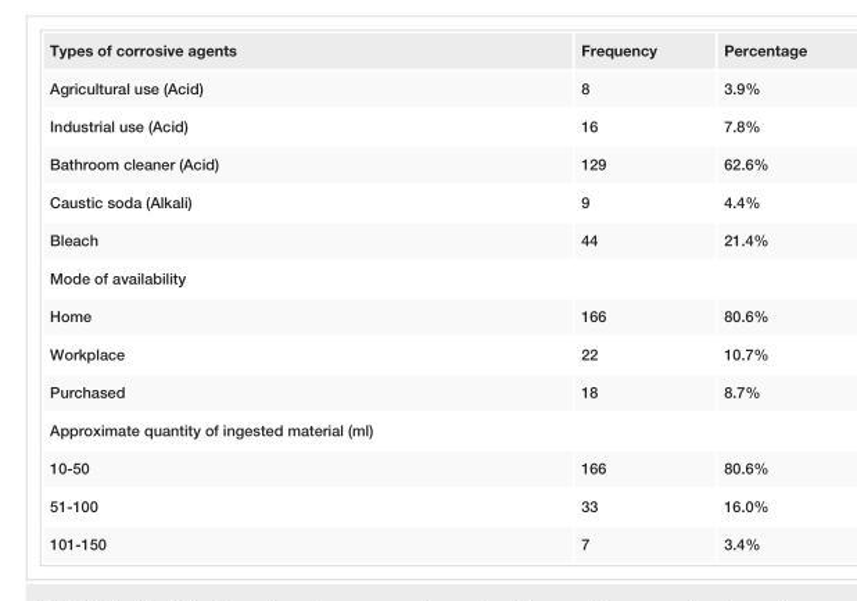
<table><tbody><tr><td>Types of corrosive agents</td><td>Frequency</td><td>Percentage</td></tr><tr><td>Agricultural use (Acid)</td><td>8</td><td>3.9%</td></tr><tr><td>Industrial use (Acid)</td><td>16</td><td>7.8%</td></tr><tr><td>Bathroom cleaner (Acid)</td><td>129</td><td>62.6%</td></tr><tr><td>Caustic soda (Alkali)</td><td>9</td><td>4.4%</td></tr><tr><td>Bleach</td><td>44</td><td>21.4%</td></tr><tr><td colspan="3">Mode of availability</td></tr><tr><td>Home</td><td>166</td><td>80.6%</td></tr><tr><td>Workplace</td><td>22</td><td>10.7%</td></tr><tr><td>Purchased</td><td>18</td><td>8.7%</td></tr><tr><td colspan="3">Approximate quantity of ingested material (ml)</td></tr><tr><td>10-50</td><td>166</td><td>80.6%</td></tr><tr><td>51-100</td><td>33</td><td>16.0%</td></tr><tr><td>101-150</td><td>7</td><td>3.4%</td></tr></tbody></table>